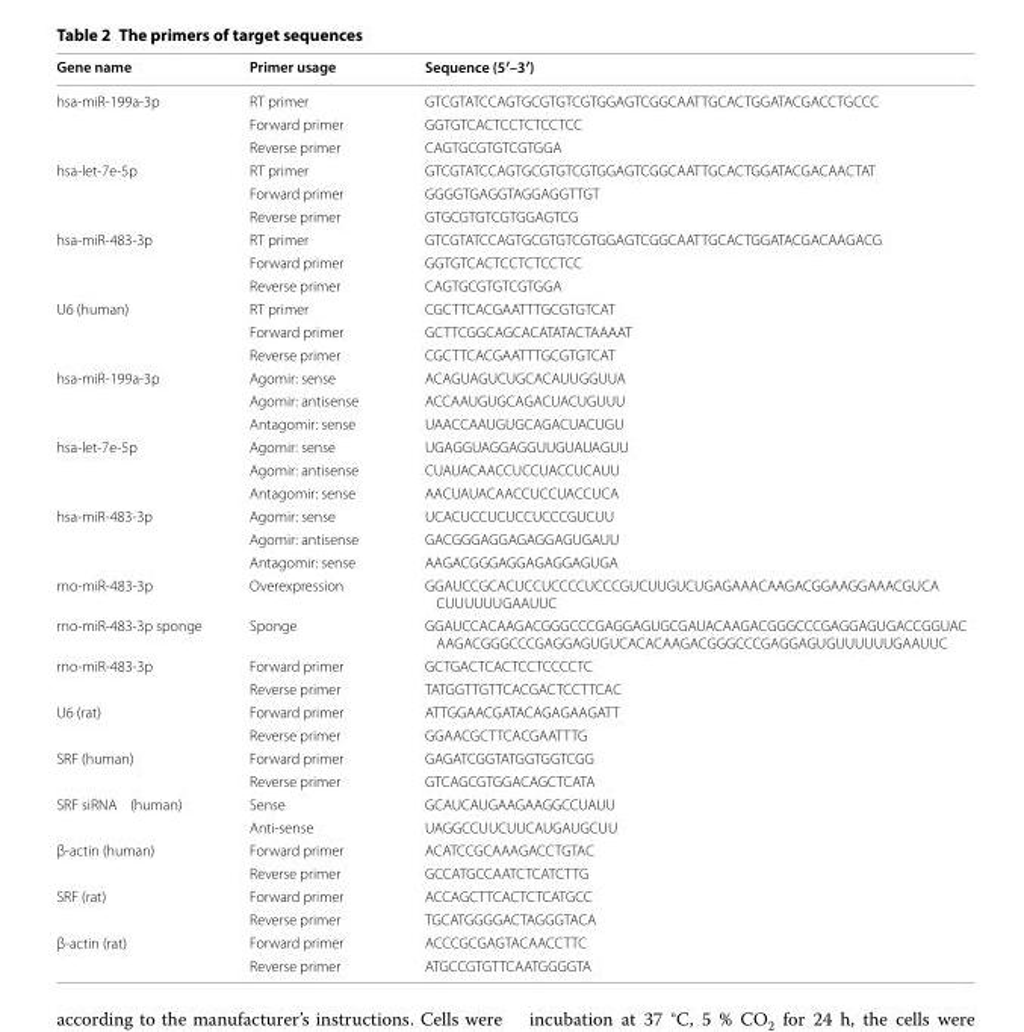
<table><thead><tr><td>Gene name</td><td>Primer usage</td><td>Sequence (5′–3′)</td></tr></thead><tbody><tr><td rowspan="3">hsa-miR-199a-3p</td><td>RT primer</td><td>GTCGTATCCAGTGCGTGTCGTGGAGTCGGCAATTGCACTGGATACGACCTGCCC</td></tr><tr><td>Forward primer</td><td>GGTGTCACTCCTCTCCTCC</td></tr><tr><td>Reverse primer</td><td>CAGTGCGTGTCGTGGA</td></tr><tr><td rowspan="3">hsa-let-7e-5p</td><td>RT primer</td><td>GTCGTATCCAGTGCGTGTCGTGGAGTCGGCAATTGCACTGGATACGACAACTAT</td></tr><tr><td>Forward primer</td><td>GGGGTGAGGTAGGAGGTTGT</td></tr><tr><td>Reverse primer</td><td>GTGCGTGTCGTGGAGTCG</td></tr><tr><td rowspan="3">hsa-miR-483-3p</td><td>RT primer</td><td>GTCGTATCCAGTGCGTGTCGTGGAGTCGGCAATTGCACTGGATACGACAAGACG</td></tr><tr><td>Forward primer</td><td>GGTGTCACTCCTCTCCTCC</td></tr><tr><td>Reverse primer</td><td>CAGTGCGTGTCGTGGA</td></tr><tr><td rowspan="3">U6 (human)</td><td>RT primer</td><td>CGCTTCACGAATTTGCGTGTCAT</td></tr><tr><td>Forward primer</td><td>GCTTCGGCAGCACATATACTAAAAT</td></tr><tr><td>Reverse primer</td><td>CGCTTCACGAATTTGCGTGTCAT</td></tr><tr><td rowspan="3">hsa-miR-199a-3p</td><td>Agomir: sense</td><td>ACAGUAGUCUGCACAUUGGUUA</td></tr><tr><td>Agomir: antisense</td><td>ACCAAUGUGCAGACUACUGUUU</td></tr><tr><td>Antagomir: sense</td><td>UAACCAAUGUGCAGACUACUGU</td></tr><tr><td rowspan="3">hsa-let-7e-5p</td><td>Agomir: sense</td><td>UGAGGUAGGAGGUUGUAUAGUU</td></tr><tr><td>Agomir: antisense</td><td>CUAUACAACCUCCUACCUCAUU</td></tr><tr><td>Antagomir: sense</td><td>AACUAUACAACCUCCUACCUCA</td></tr><tr><td rowspan="3">hsa-miR-483-3p</td><td>Agomir: sense</td><td>UCACUCCUCUCCUCCCGUCUU</td></tr><tr><td>Agomir: antisense</td><td>GACGGGAGGAGAGGAGUGAUU</td></tr><tr><td>Antagomir: sense</td><td>AAGACGGGAGGAGAGGAGUGA</td></tr><tr><td>rno-miR-483-3p</td><td>Overexpression</td><td>GGAUCCGCACUCCUCCCCUCCCGUCUUGUCUGAGAAACAAGACGGAAGGAAACGUCA CUUUUUUGAAUUC</td></tr><tr><td>rno-miR-483-3p sponge</td><td>Sponge</td><td>GGAUCCACAAGACGGGCCCGAGGAGUGCGAUACAAGACGGGCCCGAGGAGUGACCGGUAC AAGACGGGCCCGAGGAGUGUCACACAAGACGGGCCCGAGGAGUGUUUUUUGAAUUC</td></tr><tr><td rowspan="2">rno-miR-483-3p</td><td>Forward primer</td><td>GCTGACTCACTCCTCCCCTC</td></tr><tr><td>Reverse primer</td><td>TATGGTTGTTCACGACTCCTTCAC</td></tr><tr><td rowspan="2">U6 (rat)</td><td>Forward primer</td><td>ATTGGAACGATACAGAGAAGATT</td></tr><tr><td>Reverse primer</td><td>GGAACGCTTCACGAATTTG</td></tr><tr><td rowspan="2">SRF (human)</td><td>Forward primer</td><td>GAGATCGGTATGGTGGTCGG</td></tr><tr><td>Reverse primer</td><td>GTCAGCGTGGACAGCTCATA</td></tr><tr><td rowspan="2">SRF siRNA (human)</td><td>Sense</td><td>GCAUCAUGAAGAAGGCCUAUU</td></tr><tr><td>Anti-sense</td><td>UAGGCCUUCUUCAUGAUGCUU</td></tr><tr><td rowspan="2">β-actin (human)</td><td>Forward primer</td><td>ACATCCGCAAAGACCTGTAC</td></tr><tr><td>Reverse primer</td><td>GCCATGCCAATCTCATCTTG</td></tr><tr><td rowspan="2">SRF (rat)</td><td>Forward primer</td><td>ACCAGCTTCACTCTCATGCC</td></tr><tr><td>Reverse primer</td><td>TGCATGGGGACTAGGGTACA</td></tr><tr><td rowspan="2">β-actin (rat)</td><td>Forward primer</td><td>ACCCGCGAGTACAACCTTC</td></tr><tr><td>Reverse primer</td><td>ATGCCGTGTTCAATGGGGTA</td></tr></tbody></table>